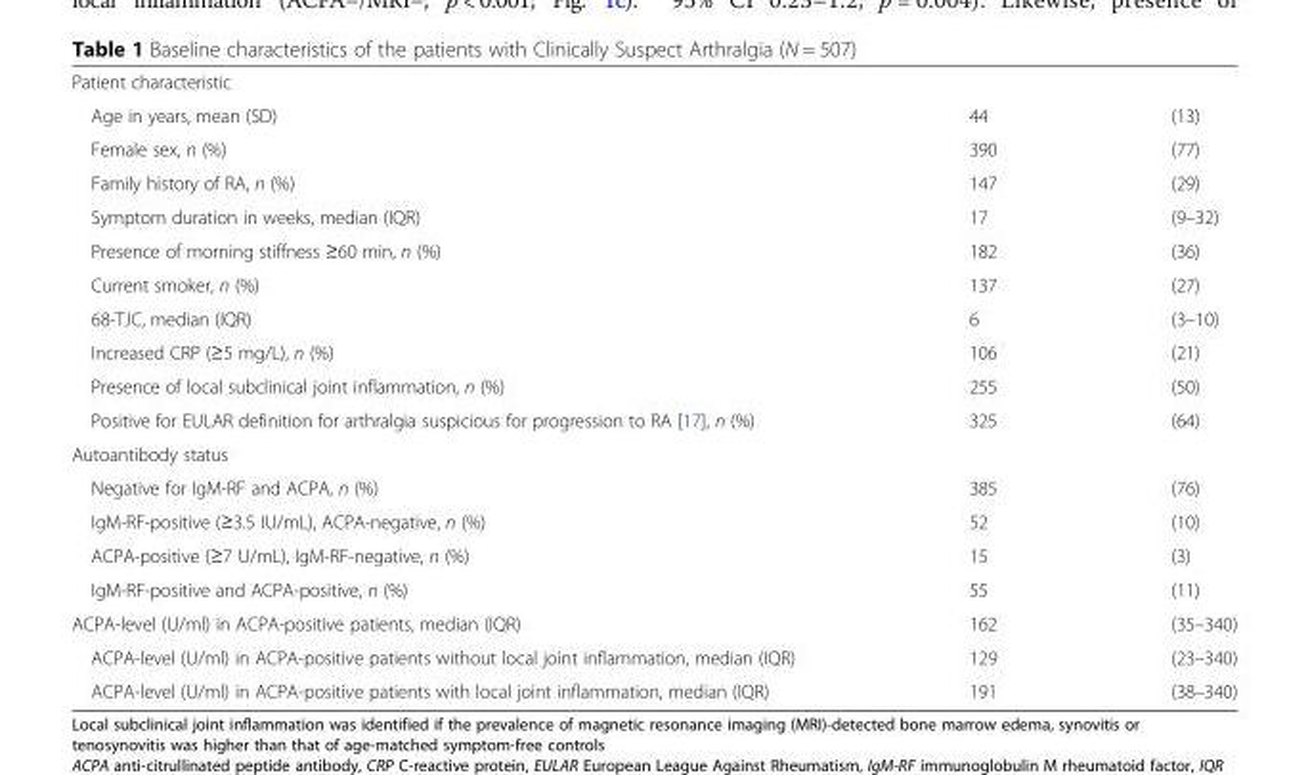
<table><tbody><tr><td colspan="3">Patient characteristic</td></tr><tr><td>Age in years, mean (SD)</td><td>44</td><td>(13)</td></tr><tr><td>Female sex, n (%)</td><td>390</td><td>(77)</td></tr><tr><td>Family history of RA, n (%)</td><td>147</td><td>(29)</td></tr><tr><td>Symptom duration in weeks, median (IQR)</td><td>17</td><td>(9–32)</td></tr><tr><td>Presence of morning stiffness ≥60 min, n (%)</td><td>182</td><td>(36)</td></tr><tr><td>Current smoker, n (%)</td><td>137</td><td>(27)</td></tr><tr><td>68-TJC, median (IQR)</td><td>6</td><td>(3–10)</td></tr><tr><td>Increased CRP (≥5 mg/L), n (%)</td><td>106</td><td>(21)</td></tr><tr><td>Presence of local subclinical joint inflammation, n (%)</td><td>255</td><td>(50)</td></tr><tr><td>Positive for EULAR definition for arthralgia suspicious for progression to RA [17], n (%)</td><td>325</td><td>(64)</td></tr><tr><td colspan="3">Autoantibody status</td></tr><tr><td>Negative for IgM-RF and ACPA, n (%)</td><td>385</td><td>(76)</td></tr><tr><td>IgM-RF-positive (≥3.5 IU/mL), ACPA-negative, n (%)</td><td>52</td><td>(10)</td></tr><tr><td>ACPA-positive (≥7 U/mL), IgM-RF-negative, n (%)</td><td>15</td><td>(3)</td></tr><tr><td>IgM-RF-positive and ACPA-positive, n (%)</td><td>55</td><td>(11)</td></tr><tr><td>ACPA-level (U/ml) in ACPA-positive patients, median (IQR)</td><td>162</td><td>(35–340)</td></tr><tr><td>ACPA-level (U/ml) in ACPA-positive patients without local joint inflammation, median (IQR)</td><td>129</td><td>(23–340)</td></tr><tr><td>ACPA-level (U/ml) in ACPA-positive patients with local joint inflammation, median (IQR)</td><td>191</td><td>(38–340)</td></tr></tbody></table>